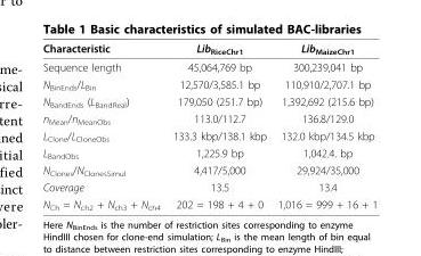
<table><thead><tr><td>Characteristic</td><td>Lib<sub>RiceChr1</sub></td><td>Lib<sub>MaizeChr1</sub></td></tr></thead><tbody><tr><td>Sequence length</td><td>45,064,769 bp</td><td>300,239,041 bp</td></tr><tr><td>N<sub>BinEnds</sub>/L<sub>Bin</sub></td><td>12,570/3,585.1 bp</td><td>110,910/2,707.1 bp</td></tr><tr><td>N<sub>BandEnds</sub> (L<sub>BandReal</sub>)</td><td>179,050 (251.7 bp)</td><td>1,392,692 (215.6 bp)</td></tr><tr><td>n<sub>Mean</sub>/n<sub>MeanObs</sub></td><td>113.0/112.7</td><td>136.8/129.0</td></tr><tr><td>L<sub>Clone</sub>/L<sub>CloneObs</sub></td><td>133.3 kbp/138.1 kbp</td><td>132.0 kbp/134.5 kbp</td></tr><tr><td>L<sub>BandObs</sub></td><td>1,225.9 bp</td><td>1,042.4. bp</td></tr><tr><td>N<sub>Clones</sub>/N<sub>ClonesSimul</sub></td><td>4,417/5,000</td><td>29,924/35,000</td></tr><tr><td>Coverage</td><td>13.5</td><td>13.4</td></tr><tr><td>N<sub>Ch</sub> = N<sub>ch2</sub> + N<sub>ch3</sub> + N<sub>ch4</sub></td><td>202 = 198 + 4 + 0</td><td>1,016 = 999 + 16 + 1</td></tr></tbody></table>